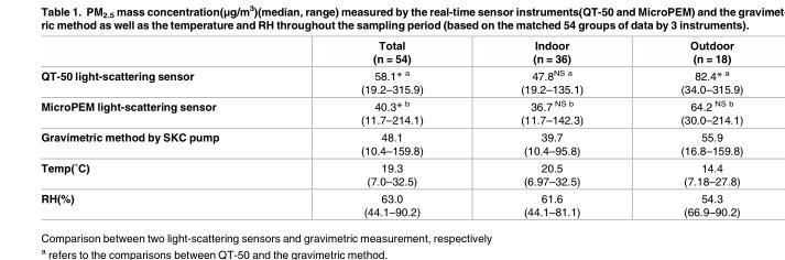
<table><thead><tr><td></td><td>Total (n = 54)</td><td>Indoor (n = 36)</td><td>Outdoor (n = 18)</td></tr></thead><tbody><tr><td>QT-50 light-scattering sensor</td><td>58.1* <sup>a</sup> (19.2–315.9)</td><td>47.8<sup>NS a</sup> (19.2–135.1)</td><td>82.4* <sup>a</sup> (34.0–315.9)</td></tr><tr><td>MicroPEM light-scattering sensor</td><td>40.3* <sup>b</sup> (11.7–214.1)</td><td>36.7 <sup>NS b</sup> (11.7–142.3)</td><td>64.2 <sup>NS b</sup> (30.0–214.1)</td></tr><tr><td>Gravimetric method by SKC pump</td><td>48.1 (10.4–159.8)</td><td>39.7 (10.4–95.8)</td><td>55.9 (16.8–159.8)</td></tr><tr><td>Temp(˚C)</td><td>19.3 (7.0–32.5)</td><td>20.5 (6.97–32.5)</td><td>14.4 (7.18–27.8)</td></tr><tr><td>RH(%)</td><td>63.0 (44.1–90.2)</td><td>61.6 (44.1–81.1)</td><td>54.3 (66.9–90.2)</td></tr></tbody></table>